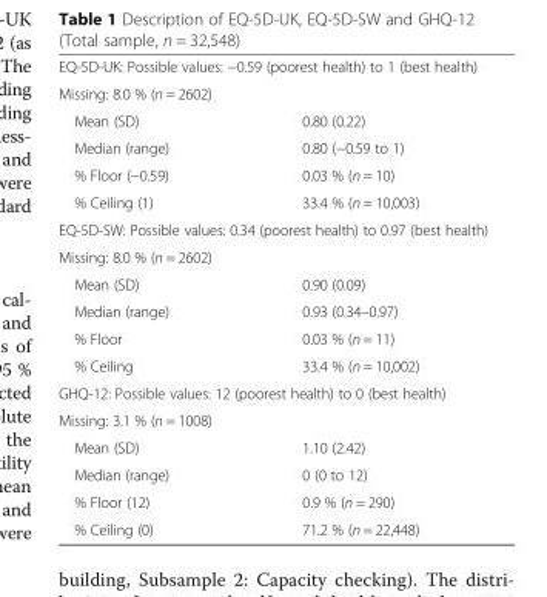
<table><tbody><tr><td colspan="2">EQ-5D-UK: Possible values: −0.59 (poorest health) to 1 (best health)</td></tr><tr><td colspan="2">Missing: 8.0 % (n = 2602)</td></tr><tr><td>Mean (SD)</td><td>0.80 (0.22)</td></tr><tr><td>Median (range)</td><td>0.80 (−0.59 to 1)</td></tr><tr><td>% Floor (−0.59)</td><td>0.03 % (n = 10)</td></tr><tr><td>% Ceiling (1)</td><td>33.4 % (n = 10,003)</td></tr><tr><td colspan="2">EQ-5D-SW: Possible values: 0.34 (poorest health) to 0.97 (best health)</td></tr><tr><td colspan="2">Missing: 8.0 % (n = 2602)</td></tr><tr><td>Mean (SD)</td><td>0.90 (0.09)</td></tr><tr><td>Median (range)</td><td>0.93 (0.34–0.97)</td></tr><tr><td>% Floor</td><td>0.03 % (n = 11)</td></tr><tr><td>% Ceiling</td><td>33.4 % (n = 10,002)</td></tr><tr><td colspan="2">GHQ-12: Possible values: 12 (poorest health) to 0 (best health)</td></tr><tr><td colspan="2">Missing: 3.1 % (n = 1008)</td></tr><tr><td>Mean (SD)</td><td>1.10 (2.42)</td></tr><tr><td>Median (range)</td><td>0 (0 to 12)</td></tr><tr><td>% Floor (12)</td><td>0.9 % (n = 290)</td></tr><tr><td>% Ceiling (0)</td><td>71.2 % (n = 22,448)</td></tr></tbody></table>